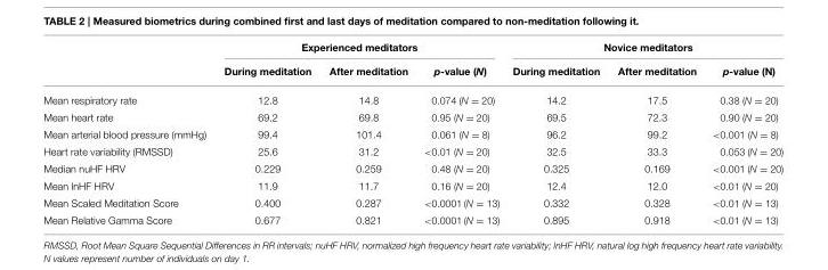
<table><thead><tr><td rowspan="2"></td><td colspan="3">Experienced meditators</td><td colspan="3">Novice meditators</td></tr><tr><td>During meditation</td><td>After meditation</td><td>p-value (N)</td><td>During meditation</td><td>After meditation</td><td>p-value (N)</td></tr></thead><tbody><tr><td>Mean respiratory rate</td><td>12.8</td><td>14.8</td><td>0.074 (N = 20)</td><td>14.2</td><td>17.5</td><td>0.38 (N = 20)</td></tr><tr><td>Mean heart rate</td><td>69.2</td><td>69.8</td><td>0.95 (N = 20)</td><td>69.5</td><td>72.3</td><td>0.90 (N = 20)</td></tr><tr><td>Mean arterial blood pressure (mmHg)</td><td>99.4</td><td>101.4</td><td>0.061 (N = 8)</td><td>96.2</td><td>99.2</td><td>&lt;0.001 (N = 8)</td></tr><tr><td>Heart rate variability (RMSSD)</td><td>25.6</td><td>31.2</td><td>&lt;0.01 (N = 20)</td><td>32.5</td><td>33.3</td><td>0.053 (N = 20)</td></tr><tr><td>Median nuHF HRV</td><td>0.229</td><td>0.259</td><td>0.48 (N = 20)</td><td>0.325</td><td>0.169</td><td>&lt;0.001 (N = 20)</td></tr><tr><td>Mean lnHF HRV</td><td>11.9</td><td>11.7</td><td>0.16 (N = 20)</td><td>12.4</td><td>12.0</td><td>&lt;0.01 (N = 20)</td></tr><tr><td>Mean Scaled Meditation Score</td><td>0.400</td><td>0.287</td><td>&lt;0.0001 (N = 13)</td><td>0.332</td><td>0.328</td><td>&lt;0.01 (N = 13)</td></tr><tr><td>Mean Relative Gamma Score</td><td>0.677</td><td>0.821</td><td>&lt;0.0001 (N = 13)</td><td>0.895</td><td>0.918</td><td>&lt;0.01 (N = 13)</td></tr></tbody></table>